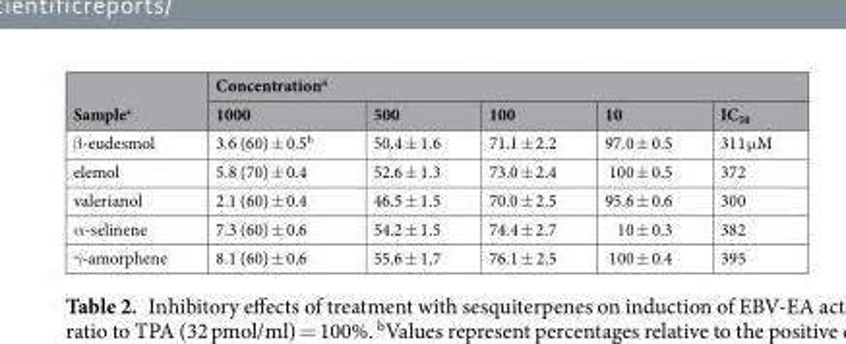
<table><thead><tr><td rowspan="2">Sample<sup>c</sup></td><td colspan="5">Concentration<sup>a</sup></td></tr><tr><td>1000</td><td>500</td><td>100</td><td>10</td><td>IC<sub>50</sub></td></tr></thead><tbody><tr><td>β-eudesmol</td><td>3.6 (60) ± 0.5<sup>b</sup></td><td>50.4 ± 1.6</td><td>71.1 ± 2.2</td><td>97.0 ± 0.5</td><td>311 μM</td></tr><tr><td>elemol</td><td>5.8 (70) ± 0.4</td><td>52.6 ± 1.3</td><td>73.0 ± 2.4</td><td>100 ± 0.5</td><td>372</td></tr><tr><td>valerianol</td><td>2.1 (60) ± 0.4</td><td>46.5 ± 1.5</td><td>70.0 ± 2.5</td><td>95.6 ± 0.6</td><td>300</td></tr><tr><td>α-selinene</td><td>7.3 (60) ± 0.6</td><td>54.2 ± 1.5</td><td>74.4 ± 2.7</td><td>10 ± 0.3</td><td>382</td></tr><tr><td>γ-amorphene</td><td>8.1 (60) ± 0.6</td><td>55.6 ± 1.7</td><td>76.1 ± 2.5</td><td>100 ± 0.4</td><td>395</td></tr></tbody></table>